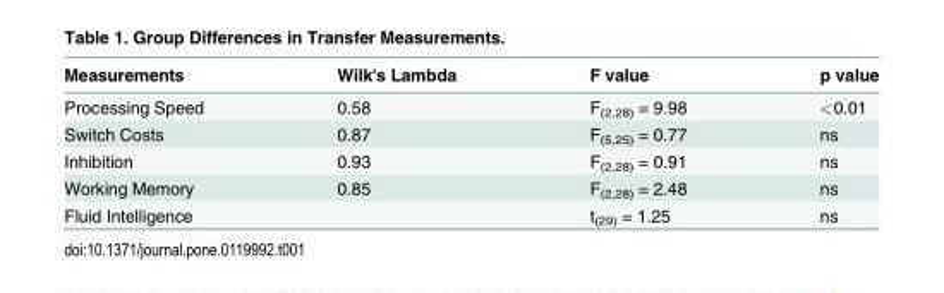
<table><thead><tr><td>Measurements</td><td>Wilk&#x27;s Lambda</td><td>F value</td><td>p value</td></tr></thead><tbody><tr><td>Processing Speed</td><td>0.58</td><td>F<sub>(2,28)</sub> = 9.98</td><td>&lt;0.01</td></tr><tr><td>Switch Costs</td><td>0.87</td><td>F<sub>(5,25)</sub> = 0.77</td><td>ns</td></tr><tr><td>Inhibition</td><td>0.93</td><td>F<sub>(2,28)</sub> = 0.91</td><td>ns</td></tr><tr><td>Working Memory</td><td>0.85</td><td>F<sub>(2,28)</sub> = 2.48</td><td>ns</td></tr><tr><td>Fluid Intelligence</td><td></td><td>t<sub>(29)</sub> = 1.25</td><td>ns</td></tr></tbody></table>